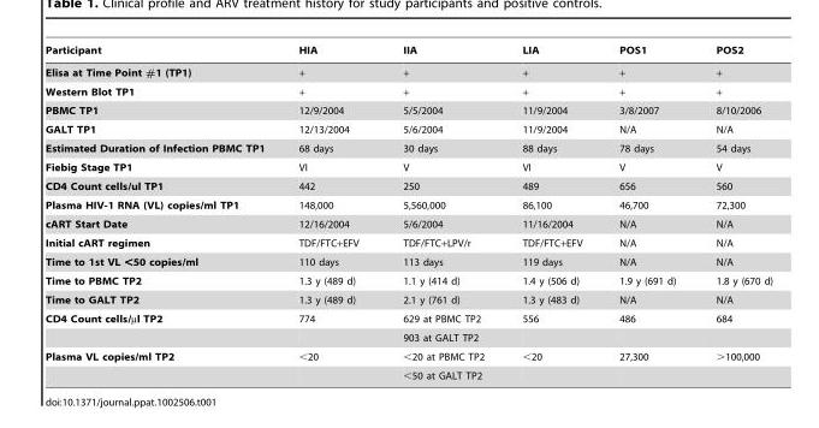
<table><thead><tr><td>Participant</td><td>HIA</td><td>IIA</td><td>LIA</td><td>POS1</td><td>POS2</td></tr></thead><tbody><tr><td>Elisa at Time Point #1 (TP1)</td><td>+</td><td>+</td><td>+</td><td>+</td><td>+</td></tr><tr><td>Western Blot TP1</td><td>+</td><td>+</td><td>+</td><td>+</td><td>+</td></tr><tr><td>PBMC TP1</td><td>12/9/2004</td><td>5/5/2004</td><td>11/9/2004</td><td>3/8/2007</td><td>8/10/2006</td></tr><tr><td>GALT TP1</td><td>12/13/2004</td><td>5/6/2004</td><td>11/9/2004</td><td>N/A</td><td>N/A</td></tr><tr><td>Estimated Duration of Infection PBMC TP1</td><td>68 days</td><td>30 days</td><td>88 days</td><td>78 days</td><td>54 days</td></tr><tr><td>Fiebig Stage TP1</td><td>VI</td><td>V</td><td>VI</td><td>V</td><td>V</td></tr><tr><td>CD4 Count cells/ul TP1</td><td>442</td><td>250</td><td>489</td><td>656</td><td>560</td></tr><tr><td>Plasma HIV-1 RNA (VL) copies/ml TP1</td><td>148,000</td><td>5,560,000</td><td>86,100</td><td>46,700</td><td>72,300</td></tr><tr><td>cART Start Date</td><td>12/16/2004</td><td>5/6/2004</td><td>11/16/2004</td><td>N/A</td><td>N/A</td></tr><tr><td>Initial cART regimen</td><td>TDF/FTC+EFV</td><td>TDF/FTC+LPV/r</td><td>TDF/FTC+EFV</td><td>N/A</td><td>N/A</td></tr><tr><td>Time to 1st VL &lt;50 copies/ml</td><td>110 days</td><td>113 days</td><td>119 days</td><td>N/A</td><td>N/A</td></tr><tr><td>Time to PBMC TP2</td><td>1.3 y (489 d)</td><td>1.1 y (414 d)</td><td>1.4 y (506 d)</td><td>1.9 y (691 d)</td><td>1.8 y (670 d)</td></tr><tr><td>Time to GALT TP2</td><td>1.3 y (489 d)</td><td>2.1 y (761 d)</td><td>1.3 y (483 d)</td><td>N/A</td><td>N/A</td></tr><tr><td rowspan="2">CD4 Count cells/µl TP2</td><td>774</td><td>629 at PBMC TP2</td><td>556</td><td>486</td><td>684</td></tr><tr><td></td><td>903 at GALT TP2</td><td></td><td></td><td></td></tr><tr><td rowspan="2">Plasma VL copies/ml TP2</td><td>&lt;20</td><td>&lt;20 at PBMC TP2</td><td>&lt;20</td><td>27,300</td><td>&gt;100,000</td></tr><tr><td></td><td>&lt;50 at GALT TP2</td><td></td><td></td><td></td></tr></tbody></table>